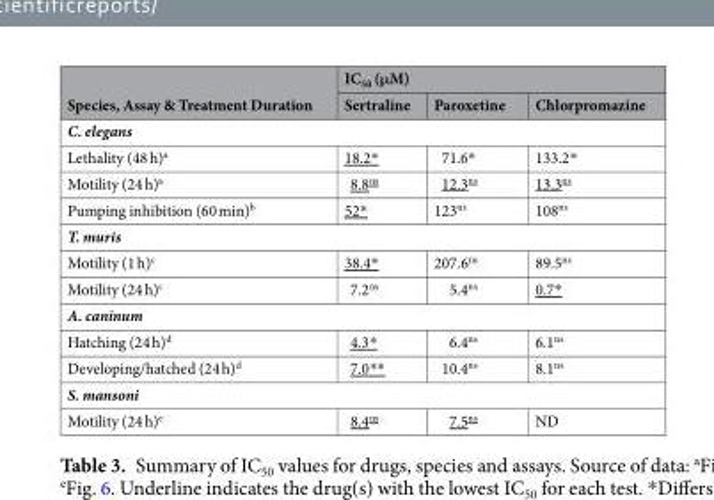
<table><thead><tr><td rowspan="2">Species, Assay &amp; Treatment Duration</td><td colspan="3">IC<sub>50</sub> (μM)</td></tr><tr><td>Sertraline</td><td>Paroxetine</td><td>Chlorpromazine</td></tr></thead><tbody><tr><td colspan="4">C. elegans</td></tr><tr><td>Lethality (48 h)<sup>a</sup></td><td>18.2*</td><td>71.6*</td><td>133.2*</td></tr><tr><td>Motility (24 h)<sup>a</sup></td><td>8.8<sup>ns</sup></td><td>12.3<sup>ns</sup></td><td>13.3<sup>ns</sup></td></tr><tr><td>Pumping inhibition (60 min)<sup>b</sup></td><td>52*</td><td>123<sup>ns</sup></td><td>108<sup>ns</sup></td></tr><tr><td colspan="4">T. muris</td></tr><tr><td>Motility (1 h)<sup>c</sup></td><td>38.4*</td><td>207.6<sup>ns</sup></td><td>89.5<sup>ns</sup></td></tr><tr><td>Motility (24 h)<sup>c</sup></td><td>7.2<sup>ns</sup></td><td>5.4<sup>ns</sup></td><td>0.7*</td></tr><tr><td colspan="4">A. caninum</td></tr><tr><td>Hatching (24 h)<sup>d</sup></td><td>4.3*</td><td>6.4<sup>ns</sup></td><td>6.1<sup>ns</sup></td></tr><tr><td>Developing/hatched (24 h)<sup>d</sup></td><td>7.0**</td><td>10.4<sup>ns</sup></td><td>8.1<sup>ns</sup></td></tr><tr><td colspan="4">S. mansoni</td></tr><tr><td>Motility (24 h)<sup>e</sup></td><td>8.4<sup>ns</sup></td><td>7.5<sup>ns</sup></td><td>ND</td></tr></tbody></table>